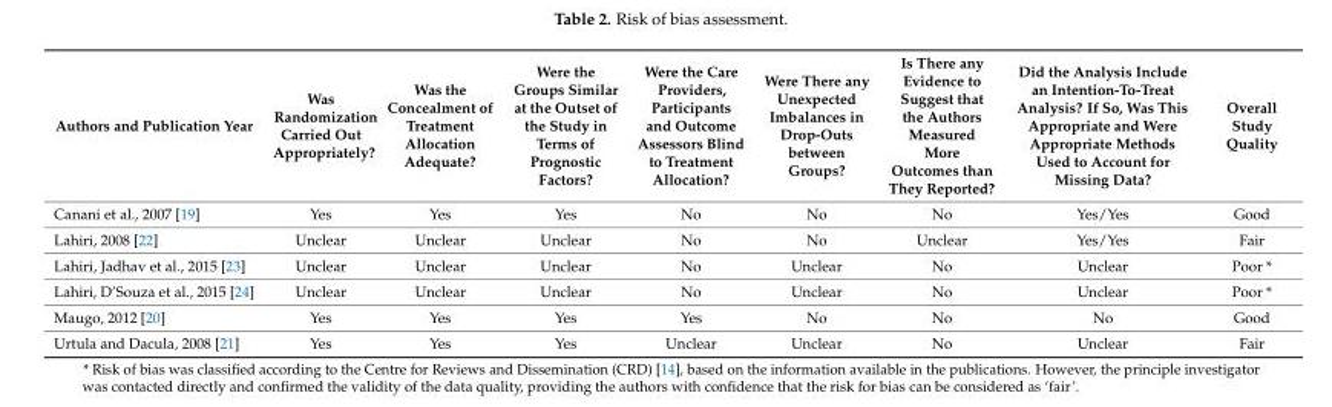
<table><thead><tr><td>Authors and Publication Year</td><td>Was Randomization Carried Out Appropriately?</td><td>Was the Concealment of Treatment Allocation Adequate?</td><td>Were the Groups Similar at the Outset of the Study in Terms of Prognostic Factors?</td><td>Were the Care Providers, Participants and Outcome Assessors Blind to Treatment Allocation?</td><td>Were There any Unexpected Imbalances in Drop-Outs between Groups?</td><td>Is There any Evidence to Suggest that the Authors Measured More Outcomes than They Reported?</td><td>Did the Analysis Include an Intention-To-Treat Analysis? If So, Was This Appropriate and Were Appropriate Methods Used to Account for Missing Data?</td><td>Overall Study Quality</td></tr></thead><tbody><tr><td>Canani et al., 2007 [19]</td><td>Yes</td><td>Yes</td><td>Yes</td><td>No</td><td>No</td><td>No</td><td>Yes/Yes</td><td>Good</td></tr><tr><td>Lahiri, 2008 [22]</td><td>Unclear</td><td>Unclear</td><td>Unclear</td><td>No</td><td>No</td><td>Unclear</td><td>Yes/Yes</td><td>Fair</td></tr><tr><td>Lahiri, Jadhav et al., 2015 [23]</td><td>Unclear</td><td>Unclear</td><td>Unclear</td><td>No</td><td>Unclear</td><td>No</td><td>Unclear</td><td>Poor *</td></tr><tr><td>Lahiri, D’Souza et al., 2015 [24]</td><td>Unclear</td><td>Unclear</td><td>Unclear</td><td>No</td><td>Unclear</td><td>No</td><td>Unclear</td><td>Poor *</td></tr><tr><td>Maugo, 2012 [20]</td><td>Yes</td><td>Yes</td><td>Yes</td><td>Yes</td><td>No</td><td>No</td><td>No</td><td>Good</td></tr><tr><td>Urtula and Dacula, 2008 [21]</td><td>Yes</td><td>Yes</td><td>Yes</td><td>Unclear</td><td>Unclear</td><td>No</td><td>Unclear</td><td>Fair</td></tr></tbody></table>